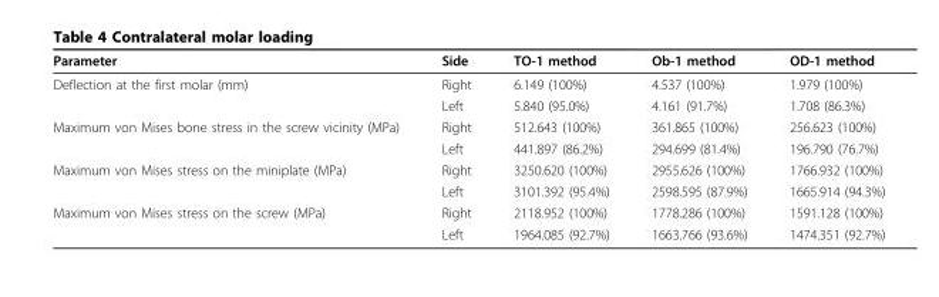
<table><thead><tr><td>Parameter</td><td>Side</td><td>TO-1 method</td><td>Ob-1 method</td><td>OD-1 method</td></tr></thead><tbody><tr><td rowspan="2">Deflection at the first molar (mm)</td><td>Right</td><td>6.149 (100%)</td><td>4.537 (100%)</td><td>1.979 (100%)</td></tr><tr><td>Left</td><td>5.840 (95.0%)</td><td>4.161 (91.7%)</td><td>1.708 (86.3%)</td></tr><tr><td rowspan="2">Maximum von Mises bone stress in the screw vicinity (MPa)</td><td>Right</td><td>512.643 (100%)</td><td>361.865 (100%)</td><td>256.623 (100%)</td></tr><tr><td>Left</td><td>441.897 (86.2%)</td><td>294.699 (81.4%)</td><td>196.790 (76.7%)</td></tr><tr><td rowspan="2">Maximum von Mises stress on the miniplate (MPa)</td><td>Right</td><td>3250.620 (100%)</td><td>2955.626 (100%)</td><td>1766.932 (100%)</td></tr><tr><td>Left</td><td>3101.392 (95.4%)</td><td>2598.595 (87.9%)</td><td>1665.914 (94.3%)</td></tr><tr><td rowspan="2">Maximum von Mises stress on the screw (MPa)</td><td>Right</td><td>2118.952 (100%)</td><td>1778.286 (100%)</td><td>1591.128 (100%)</td></tr><tr><td>Left</td><td>1964.085 (92.7%)</td><td>1663.766 (93.6%)</td><td>1474.351 (92.7%)</td></tr></tbody></table>